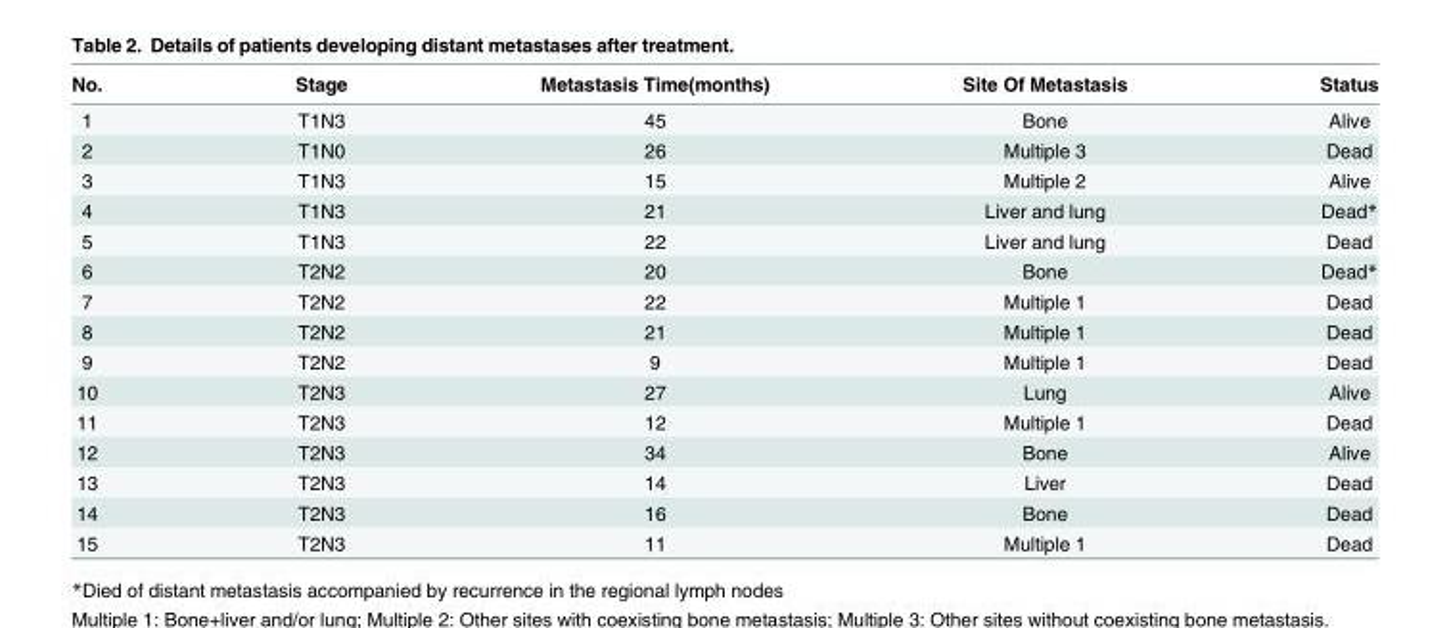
<table><thead><tr><td>No.</td><td>Stage</td><td>Metastasis Time(months)</td><td>Site Of Metastasis</td><td>Status</td></tr></thead><tbody><tr><td>1</td><td>T1N3</td><td>45</td><td>Bone</td><td>Alive</td></tr><tr><td>2</td><td>T1N0</td><td>26</td><td>Multiple 3</td><td>Dead</td></tr><tr><td>3</td><td>T1N3</td><td>15</td><td>Multiple 2</td><td>Alive</td></tr><tr><td>4</td><td>T1N3</td><td>21</td><td>Liver and lung</td><td>Dead*</td></tr><tr><td>5</td><td>T1N3</td><td>22</td><td>Liver and lung</td><td>Dead</td></tr><tr><td>6</td><td>T2N2</td><td>20</td><td>Bone</td><td>Dead*</td></tr><tr><td>7</td><td>T2N2</td><td>22</td><td>Multiple 1</td><td>Dead</td></tr><tr><td>8</td><td>T2N2</td><td>21</td><td>Multiple 1</td><td>Dead</td></tr><tr><td>9</td><td>T2N2</td><td>9</td><td>Multiple 1</td><td>Dead</td></tr><tr><td>10</td><td>T2N3</td><td>27</td><td>Lung</td><td>Alive</td></tr><tr><td>11</td><td>T2N3</td><td>12</td><td>Multiple 1</td><td>Dead</td></tr><tr><td>12</td><td>T2N3</td><td>34</td><td>Bone</td><td>Alive</td></tr><tr><td>13</td><td>T2N3</td><td>14</td><td>Liver</td><td>Dead</td></tr><tr><td>14</td><td>T2N3</td><td>16</td><td>Bone</td><td>Dead</td></tr><tr><td>15</td><td>T2N3</td><td>11</td><td>Multiple 1</td><td>Dead</td></tr></tbody></table>